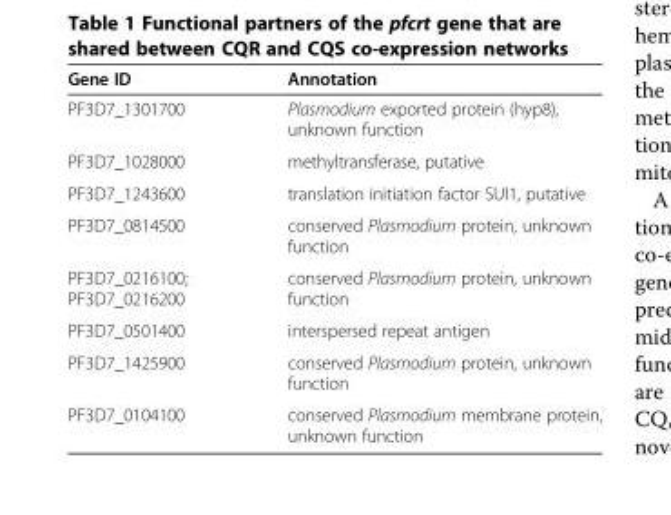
<table><thead><tr><td>Gene ID</td><td>Annotation</td></tr></thead><tbody><tr><td>PF3D7_1301700</td><td>Plasmodium exported protein (hyp8), unknown function</td></tr><tr><td>PF3D7_1028000</td><td>methyltransferase, putative</td></tr><tr><td>PF3D7_1243600</td><td>translation initiation factor SUI1, putative</td></tr><tr><td>PF3D7_0814500</td><td>conserved Plasmodium protein, unknown function</td></tr><tr><td>PF3D7_0216100; PF3D7_0216200</td><td>conserved Plasmodium protein, unknown function</td></tr><tr><td>PF3D7_0501400</td><td>interspersed repeat antigen</td></tr><tr><td>PF3D7_1425900</td><td>conserved Plasmodium protein, unknown function</td></tr><tr><td>PF3D7_0104100</td><td>conserved Plasmodium membrane protein, unknown function</td></tr></tbody></table>